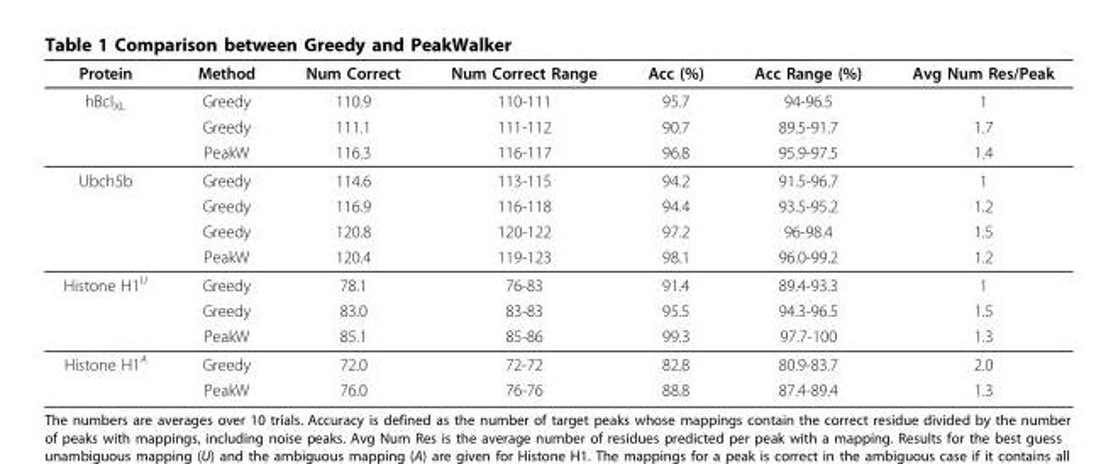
<table><thead><tr><td>Protein</td><td>Method</td><td>Num Correct</td><td>Num Correct Range</td><td>Acc (%)</td><td>Acc Range (%)</td><td>Avg Num Res/Peak</td></tr></thead><tbody><tr><td rowspan="3">hBcl<sub>XL</sub></td><td>Greedy</td><td>110.9</td><td>110-111</td><td>95.7</td><td>94-96.5</td><td>1</td></tr><tr><td>Greedy</td><td>111.1</td><td>111-112</td><td>90.7</td><td>89.5-91.7</td><td>1.7</td></tr><tr><td>PeakW</td><td>116.3</td><td>116-117</td><td>96.8</td><td>95.9-97.5</td><td>1.4</td></tr><tr><td rowspan="4">Ubch5b</td><td>Greedy</td><td>114.6</td><td>113-115</td><td>94.2</td><td>91.5-96.7</td><td>1</td></tr><tr><td>Greedy</td><td>116.9</td><td>116-118</td><td>94.4</td><td>93.5-95.2</td><td>1.2</td></tr><tr><td>Greedy</td><td>120.8</td><td>120-122</td><td>97.2</td><td>96-98.4</td><td>1.5</td></tr><tr><td>PeakW</td><td>120.4</td><td>119-123</td><td>98.1</td><td>96.0-99.2</td><td>1.2</td></tr><tr><td rowspan="3">Histone H1<sup>U</sup></td><td>Greedy</td><td>78.1</td><td>76-83</td><td>91.4</td><td>89.4-93.3</td><td>1</td></tr><tr><td>Greedy</td><td>83.0</td><td>83-83</td><td>95.5</td><td>94.3-96.5</td><td>1.5</td></tr><tr><td>PeakW</td><td>85.1</td><td>85-86</td><td>99.3</td><td>97.7-100</td><td>1.3</td></tr><tr><td rowspan="2">Histone H1<sup>A</sup></td><td>Greedy</td><td>72.0</td><td>72-72</td><td>82.8</td><td>80.9-83.7</td><td>2.0</td></tr><tr><td>PeakW</td><td>76.0</td><td>76-76</td><td>88.8</td><td>87.4-89.4</td><td>1.3</td></tr></tbody></table>